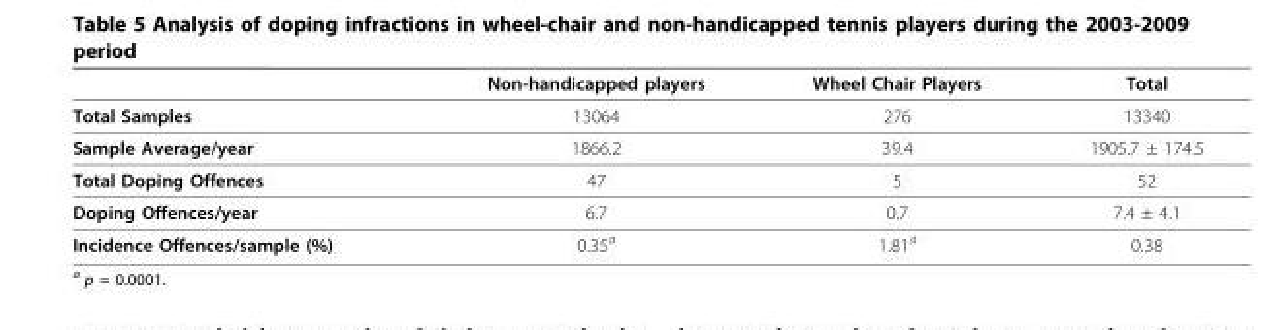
<table><thead><tr><td></td><td>Non-handicapped players</td><td>Wheel Chair Players</td><td>Total</td></tr></thead><tbody><tr><td>Total Samples</td><td>13064</td><td>276</td><td>13340</td></tr><tr><td>Sample Average/year</td><td>1866.2</td><td>39.4</td><td>1905.7 ± 174.5</td></tr><tr><td>Total Doping Offences</td><td>47</td><td>5</td><td>52</td></tr><tr><td>Doping Offences/year</td><td>6.7</td><td>0.7</td><td>7.4 ± 4.1</td></tr><tr><td>Incidence Offences/sample (%)</td><td>0.35<sup>a</sup></td><td>1.81<sup>a</sup></td><td>0.38</td></tr></tbody></table>